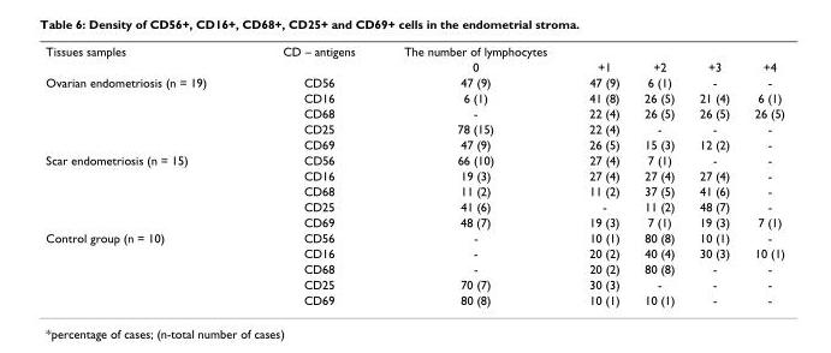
<table><tbody><tr><td rowspan="2">Tissues samples</td><td>CD – antigens</td><td>The number of lymphocytes</td><td></td><td></td><td></td><td></td></tr><tr><td></td><td>0</td><td>+1</td><td>+2</td><td>+3</td><td>+4</td></tr><tr><td rowspan="5">Ovarian endometriosis (n = 19)</td><td>CD56</td><td>47 (9)</td><td>47 (9)</td><td>6 (1)</td><td>-</td><td>-</td></tr><tr><td>CD16</td><td>6 (1)</td><td>41 (8)</td><td>26 (5)</td><td>21 (4)</td><td>6 (1)</td></tr><tr><td>CD68</td><td>-</td><td>22 (4)</td><td>26 (5)</td><td>26 (5)</td><td>26 (5)</td></tr><tr><td>CD25</td><td>78 (15)</td><td>22 (4)</td><td>-</td><td>-</td><td>-</td></tr><tr><td>CD69</td><td>47 (9)</td><td>26 (5)</td><td>15 (3)</td><td>12 (2)</td><td>-</td></tr><tr><td rowspan="5">Scar endometriosis (n = 15)</td><td>CD56</td><td>66 (10)</td><td>27 (4)</td><td>7 (1)</td><td>-</td><td>-</td></tr><tr><td>CD16</td><td>19 (3)</td><td>27 (4)</td><td>27 (4)</td><td>27 (4)</td><td>-</td></tr><tr><td>CD68</td><td>11 (2)</td><td>11 (2)</td><td>37 (5)</td><td>41 (6)</td><td>-</td></tr><tr><td>CD25</td><td>41 (6)</td><td>-</td><td>11 (2)</td><td>48 (7)</td><td>-</td></tr><tr><td>CD69</td><td>48 (7)</td><td>19 (3)</td><td>7 (1)</td><td>19 (3)</td><td>7 (1)</td></tr><tr><td rowspan="5">Control group (n = 10)</td><td>CD56</td><td>-</td><td>10 (1)</td><td>80 (8)</td><td>10 (1)</td><td>-</td></tr><tr><td>CD16</td><td>-</td><td>20 (2)</td><td>40 (4)</td><td>30 (3)</td><td>10 (1)</td></tr><tr><td>CD68</td><td>-</td><td>20 (2)</td><td>80 (8)</td><td>-</td><td>-</td></tr><tr><td>CD25</td><td>70 (7)</td><td>30 (3)</td><td>-</td><td>-</td><td>-</td></tr><tr><td>CD69</td><td>80 (8)</td><td>10 (1)</td><td>10 (1)</td><td>-</td><td>-</td></tr></tbody></table>